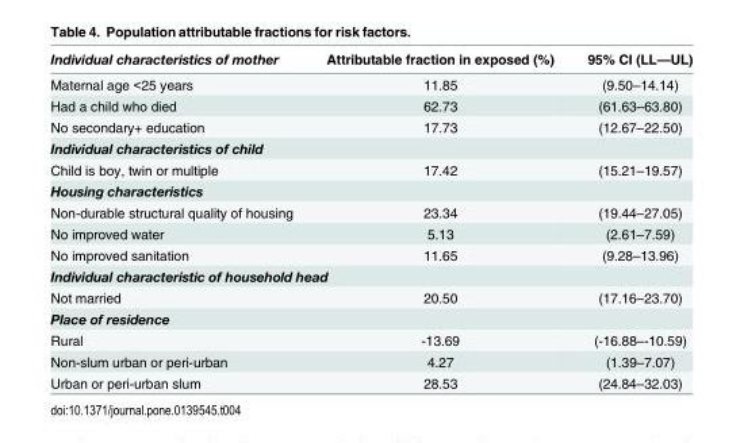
<table><thead><tr><td>Individual characteristics of mother</td><td>Attributable fraction in exposed (%)</td><td>95% CI (LL—UL)</td></tr></thead><tbody><tr><td>Maternal age &lt;25 years</td><td>11.85</td><td>(9.50–14.14)</td></tr><tr><td>Had a child who died</td><td>62.73</td><td>(61.63–63.80)</td></tr><tr><td>No secondary+ education</td><td>17.73</td><td>(12.67–22.50)</td></tr><tr><td colspan="3">Individual characteristics of child</td></tr><tr><td>Child is boy, twin or multiple</td><td>17.42</td><td>(15.21–19.57)</td></tr><tr><td colspan="3">Housing characteristics</td></tr><tr><td>Non-durable structural quality of housing</td><td>23.34</td><td>(19.44–27.05)</td></tr><tr><td>No improved water</td><td>5.13</td><td>(2.61–7.59)</td></tr><tr><td>No improved sanitation</td><td>11.65</td><td>(9.28–13.96)</td></tr><tr><td colspan="3">Individual characteristic of household head</td></tr><tr><td>Not married</td><td>20.50</td><td>(17.16–23.70)</td></tr><tr><td colspan="3">Place of residence</td></tr><tr><td>Rural</td><td>-13.69</td><td>(-16.88–-10.59)</td></tr><tr><td>Non-slum urban or peri-urban</td><td>4.27</td><td>(1.39–7.07)</td></tr><tr><td>Urban or peri-urban slum</td><td>28.53</td><td>(24.84–32.03)</td></tr></tbody></table>